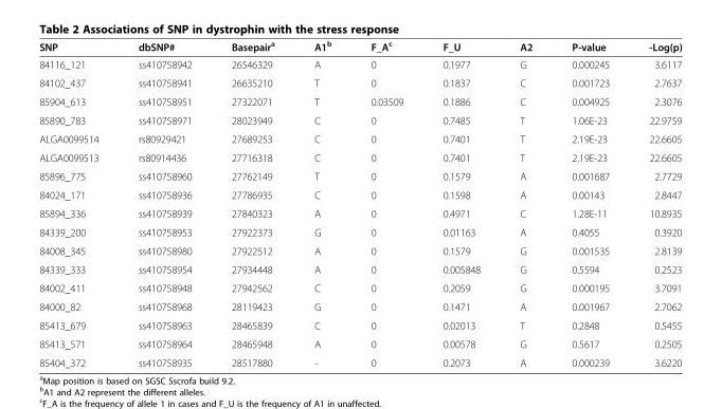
<table><thead><tr><td>SNP</td><td>dbSNP#</td><td>Basepair<sup>a</sup></td><td>A1<sup>b</sup></td><td>F_A<sup>c</sup></td><td>F_U</td><td>A2</td><td>P-value</td><td>-Log(p)</td></tr></thead><tbody><tr><td>84116_121</td><td>ss410758942</td><td>26546329</td><td>A</td><td>0</td><td>0.1977</td><td>G</td><td>0.000245</td><td>3.6117</td></tr><tr><td>84102_437</td><td>ss410758941</td><td>26635210</td><td>T</td><td>0</td><td>0.1837</td><td>C</td><td>0.001723</td><td>2.7637</td></tr><tr><td>85904_613</td><td>ss410758951</td><td>27322071</td><td>T</td><td>0.03509</td><td>0.1886</td><td>C</td><td>0.004925</td><td>2.3076</td></tr><tr><td>85890_783</td><td>ss410758971</td><td>28023949</td><td>C</td><td>0</td><td>0.7485</td><td>T</td><td>1.06E-23</td><td>22.9759</td></tr><tr><td>ALGA0099514</td><td>rs80929421</td><td>27689253</td><td>C</td><td>0</td><td>0.7401</td><td>T</td><td>2.19E-23</td><td>22.6605</td></tr><tr><td>ALGA0099513</td><td>rs80914436</td><td>27716318</td><td>C</td><td>0</td><td>0.7401</td><td>T</td><td>2.19E-23</td><td>22.6605</td></tr><tr><td>85896_775</td><td>ss410758960</td><td>27762149</td><td>T</td><td>0</td><td>0.1579</td><td>A</td><td>0.001687</td><td>2.7729</td></tr><tr><td>84024_171</td><td>ss410758936</td><td>27786935</td><td>C</td><td>0</td><td>0.1598</td><td>A</td><td>0.00143</td><td>2.8447</td></tr><tr><td>85894_336</td><td>ss410758939</td><td>27840323</td><td>A</td><td>0</td><td>0.4971</td><td>C</td><td>1.28E-11</td><td>10.8935</td></tr><tr><td>84339_200</td><td>ss410758953</td><td>27922373</td><td>G</td><td>0</td><td>0.01163</td><td>A</td><td>0.4055</td><td>0.3920</td></tr><tr><td>84008_345</td><td>ss410758980</td><td>27922512</td><td>A</td><td>0</td><td>0.1579</td><td>G</td><td>0.001535</td><td>2.8139</td></tr><tr><td>84339_333</td><td>ss410758954</td><td>27934448</td><td>A</td><td>0</td><td>0.005848</td><td>G</td><td>0.5594</td><td>0.2523</td></tr><tr><td>84002_411</td><td>ss410758948</td><td>27942562</td><td>C</td><td>0</td><td>0.2059</td><td>G</td><td>0.000195</td><td>3.7091</td></tr><tr><td>84000_82</td><td>ss410758968</td><td>28119423</td><td>G</td><td>0</td><td>0.1471</td><td>A</td><td>0.001967</td><td>2.7062</td></tr><tr><td>85413_679</td><td>ss410758963</td><td>28465839</td><td>C</td><td>0</td><td>0.02013</td><td>T</td><td>0.2848</td><td>0.5455</td></tr><tr><td>85413_571</td><td>ss410758964</td><td>28465948</td><td>A</td><td>0</td><td>0.00578</td><td>G</td><td>0.5617</td><td>0.2505</td></tr><tr><td>85404_372</td><td>ss410758935</td><td>28517880</td><td>-</td><td>0</td><td>0.2073</td><td>A</td><td>0.000239</td><td>3.6220</td></tr></tbody></table>